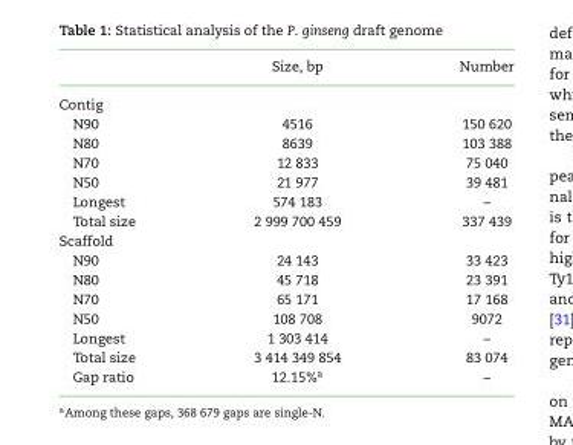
<table><thead><tr><td></td><td>Size, bp</td><td>Number</td></tr></thead><tbody><tr><td colspan="3">Contig</td></tr><tr><td>N90</td><td>4516</td><td>150 620</td></tr><tr><td>N80</td><td>8639</td><td>103 388</td></tr><tr><td>N70</td><td>12 833</td><td>75 040</td></tr><tr><td>N50</td><td>21 977</td><td>39 481</td></tr><tr><td>Longest</td><td>574 183</td><td>–</td></tr><tr><td>Total size</td><td>2 999 700 459</td><td>337 439</td></tr><tr><td colspan="3">Scaffold</td></tr><tr><td>N90</td><td>24 143</td><td>33 423</td></tr><tr><td>N80</td><td>45 718</td><td>23 391</td></tr><tr><td>N70</td><td>65 171</td><td>17 168</td></tr><tr><td>N50</td><td>108 708</td><td>9072</td></tr><tr><td>Longest</td><td>1 303 414</td><td>–</td></tr><tr><td>Total size</td><td>3 414 349 854</td><td>83 074</td></tr><tr><td>Gap ratio</td><td>12.15%<sup>a</sup></td><td>–</td></tr></tbody></table>